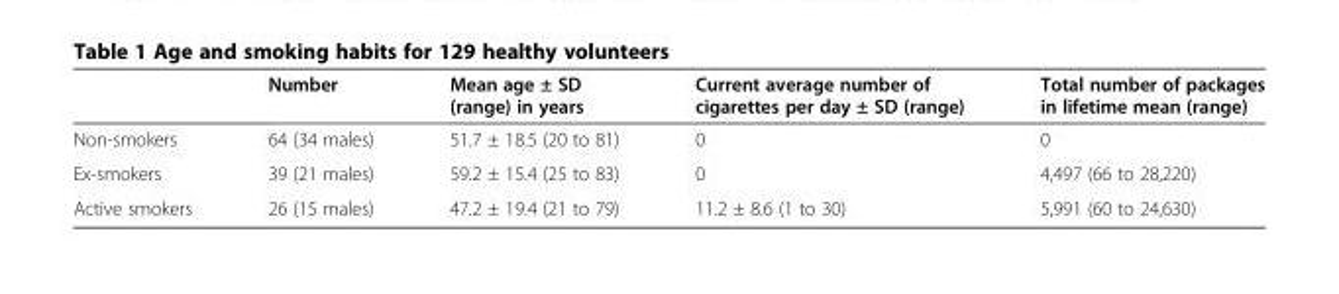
<table><thead><tr><td></td><td>Number</td><td>Mean age ± SD (range) in years</td><td>Current average number of cigarettes per day ± SD (range)</td><td>Total number of packages in lifetime mean (range)</td></tr></thead><tbody><tr><td>Non-smokers</td><td>64 (34 males)</td><td>51.7 ± 18.5 (20 to 81)</td><td>0</td><td>0</td></tr><tr><td>Ex-smokers</td><td>39 (21 males)</td><td>59.2 ± 15.4 (25 to 83)</td><td>0</td><td>4,497 (66 to 28,220)</td></tr><tr><td>Active smokers</td><td>26 (15 males)</td><td>47.2 ± 19.4 (21 to 79)</td><td>11.2 ± 8.6 (1 to 30)</td><td>5,991 (60 to 24,630)</td></tr></tbody></table>